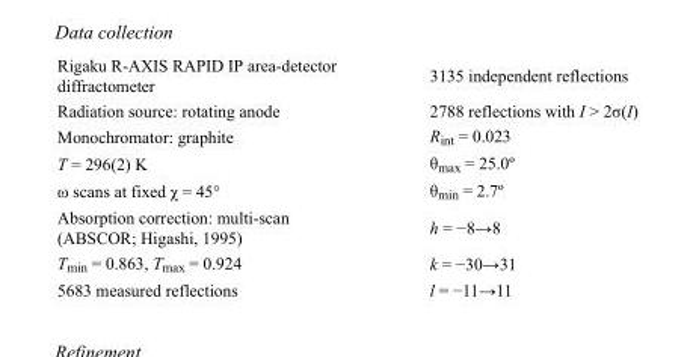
<table><tbody><tr><td>Rigaku R-AXIS RAPID IP area-detector diffractometer</td><td>3135 independent reflections</td></tr><tr><td>Radiation source: rotating anode</td><td>2788 reflections with I &gt; 2σ(I)</td></tr><tr><td>Monochromator: graphite</td><td>R<sub>int</sub> = 0.023</td></tr><tr><td>T = 296(2) K</td><td>θ<sub>max</sub> = 25.0º</td></tr><tr><td>ω scans at fixed χ = 45°</td><td>θ<sub>min</sub> = 2.7º</td></tr><tr><td>Absorption correction: multi-scan (ABSCOR; Higashi, 1995)</td><td>h = −8→8</td></tr><tr><td>T<sub>min</sub> = 0.863, T<sub>max</sub> = 0.924</td><td>k = −30→31</td></tr><tr><td>5683 measured reflections</td><td>l = −11→11</td></tr></tbody></table>